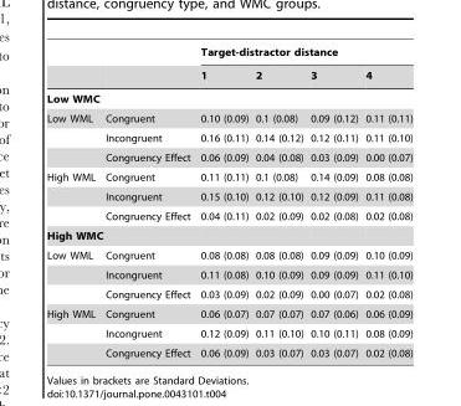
<table><thead><tr><td rowspan="2"></td><td rowspan="2"></td><td colspan="4">Target-distractor distance</td></tr><tr><td>1</td><td>2</td><td>3</td><td>4</td></tr></thead><tbody><tr><td colspan="6">Low WMC</td></tr><tr><td rowspan="3">Low WML</td><td>Congruent</td><td>0.10 (0.09)</td><td>0.1 (0.08)</td><td>0.09 (0.12)</td><td>0.11 (0.11)</td></tr><tr><td>Incongruent</td><td>0.16 (0.11)</td><td>0.14 (0.12)</td><td>0.12 (0.11)</td><td>0.11 (0.10)</td></tr><tr><td>Congruency Effect</td><td>0.06 (0.09)</td><td>0.04 (0.08)</td><td>0.03 (0.09)</td><td>0.00 (0.07)</td></tr><tr><td rowspan="3">High WML</td><td>Congruent</td><td>0.11 (0.11)</td><td>0.1 (0.08)</td><td>0.14 (0.09)</td><td>0.08 (0.08)</td></tr><tr><td>Incongruent</td><td>0.15 (0.10)</td><td>0.12 (0.10)</td><td>0.12 (0.09)</td><td>0.11 (0.08)</td></tr><tr><td>Congruency Effect</td><td>0.04 (0.11)</td><td>0.02 (0.09)</td><td>0.02 (0.08)</td><td>0.02 (0.08)</td></tr><tr><td colspan="6">High WMC</td></tr><tr><td rowspan="3">Low WML</td><td>Congruent</td><td>0.08 (0.08)</td><td>0.08 (0.08)</td><td>0.09 (0.09)</td><td>0.10 (0.09)</td></tr><tr><td>Incongruent</td><td>0.11 (0.08)</td><td>0.10 (0.09)</td><td>0.09 (0.09)</td><td>0.11 (0.10)</td></tr><tr><td>Congruency Effect</td><td>0.03 (0.09)</td><td>0.02 (0.09)</td><td>0.00 (0.07)</td><td>0.02 (0.08)</td></tr><tr><td rowspan="3">High WML</td><td>Congruent</td><td>0.06 (0.07)</td><td>0.07 (0.07)</td><td>0.07 (0.06)</td><td>0.06 (0.09)</td></tr><tr><td>Incongruent</td><td>0.12 (0.09)</td><td>0.11 (0.10)</td><td>0.10 (0.11)</td><td>0.08 (0.09)</td></tr><tr><td>Congruency Effect</td><td>0.06 (0.09)</td><td>0.03 (0.07)</td><td>0.03 (0.07)</td><td>0.02 (0.08)</td></tr></tbody></table>